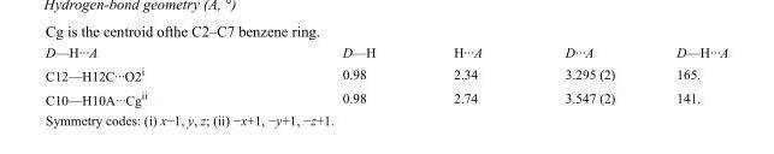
<table><tbody><tr><td>D—H···A</td><td>D—H</td><td>H···A</td><td>D···A</td><td>D—H···A</td></tr><tr><td>C12—H12C···O2<sup>i</sup></td><td>0.98</td><td>2.34</td><td>3.295 (2)</td><td>165.</td></tr><tr><td>C10—H10A···Cg<sup>ii</sup></td><td>0.98</td><td>2.74</td><td>3.547 (2)</td><td>141.</td></tr></tbody></table>